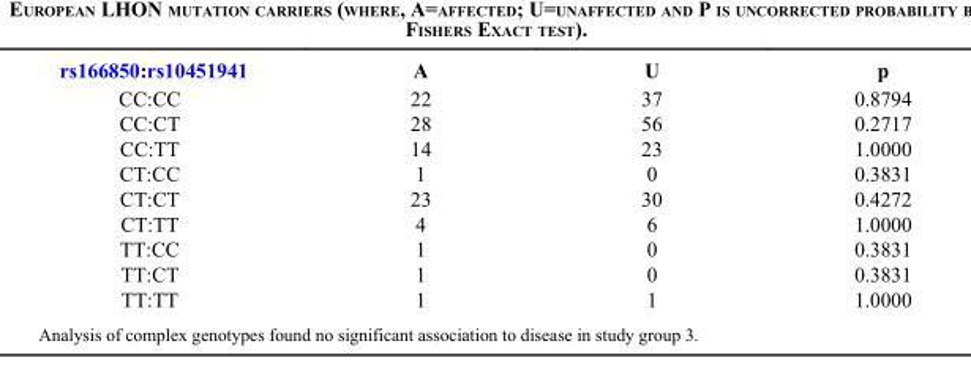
<table><thead><tr><td>rs166850:rs10451941</td><td>A</td><td>U</td><td>p</td></tr></thead><tbody><tr><td>CC:CC</td><td>22</td><td>37</td><td>0.8794</td></tr><tr><td>CC:CT</td><td>28</td><td>56</td><td>0.2717</td></tr><tr><td>CC:TT</td><td>14</td><td>23</td><td>1.0000</td></tr><tr><td>CT:CC</td><td>1</td><td>0</td><td>0.3831</td></tr><tr><td>CT:CT</td><td>23</td><td>30</td><td>0.4272</td></tr><tr><td>CT:TT</td><td>4</td><td>6</td><td>1.0000</td></tr><tr><td>TT:CC</td><td>1</td><td>0</td><td>0.3831</td></tr><tr><td>TT:CT</td><td>1</td><td>0</td><td>0.3831</td></tr><tr><td>TT:TT</td><td>1</td><td>1</td><td>1.0000</td></tr></tbody></table>